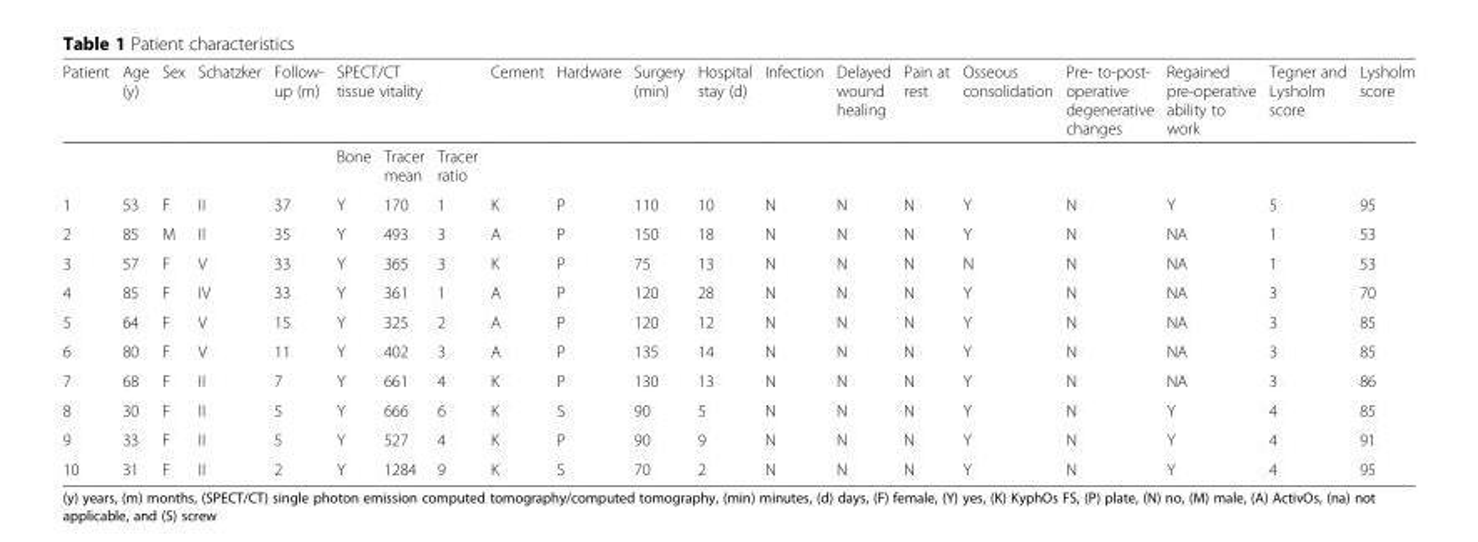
<table><thead><tr><td rowspan="2">Patient</td><td rowspan="2">Age (y)</td><td rowspan="2">Sex</td><td rowspan="2">Schatzker</td><td rowspan="2">Follow- up (m)</td><td colspan="3">SPECT/CT tissue vitality</td><td rowspan="2">Cement</td><td rowspan="2">Hardware</td><td rowspan="2">Surgery (min)</td><td rowspan="2">Hospital stay (d)</td><td rowspan="2">Infection</td><td rowspan="2">Delayed wound healing</td><td rowspan="2">Pain at rest</td><td rowspan="2">Osseous consolidation</td><td rowspan="2">Pre- to-post- operative degenerative changes</td><td rowspan="2">Regained pre-operative ability to work</td><td rowspan="2">Tegner and Lysholm score</td><td rowspan="2">Lysholm score</td></tr><tr><td>Bone</td><td>Tracer mean</td><td>Tracer ratio</td></tr></thead><tbody><tr><td>1</td><td>53</td><td>F</td><td>II</td><td>37</td><td>Y</td><td>170</td><td>1</td><td>K</td><td>P</td><td>110</td><td>10</td><td>N</td><td>N</td><td>N</td><td>Y</td><td>N</td><td>Y</td><td>5</td><td>95</td></tr><tr><td>2</td><td>85</td><td>M</td><td>II</td><td>35</td><td>Y</td><td>493</td><td>3</td><td>A</td><td>P</td><td>150</td><td>18</td><td>N</td><td>N</td><td>N</td><td>Y</td><td>N</td><td>NA</td><td>1</td><td>53</td></tr><tr><td>3</td><td>57</td><td>F</td><td>V</td><td>33</td><td>Y</td><td>365</td><td>3</td><td>K</td><td>P</td><td>75</td><td>13</td><td>N</td><td>N</td><td>N</td><td>N</td><td>N</td><td>NA</td><td>1</td><td>53</td></tr><tr><td>4</td><td>85</td><td>F</td><td>IV</td><td>33</td><td>Y</td><td>361</td><td>1</td><td>A</td><td>P</td><td>120</td><td>28</td><td>N</td><td>N</td><td>N</td><td>Y</td><td>N</td><td>NA</td><td>3</td><td>70</td></tr><tr><td>5</td><td>64</td><td>F</td><td>V</td><td>15</td><td>Y</td><td>325</td><td>2</td><td>A</td><td>P</td><td>120</td><td>12</td><td>N</td><td>N</td><td>N</td><td>Y</td><td>N</td><td>NA</td><td>3</td><td>85</td></tr><tr><td>6</td><td>80</td><td>F</td><td>V</td><td>11</td><td>Y</td><td>402</td><td>3</td><td>A</td><td>P</td><td>135</td><td>14</td><td>N</td><td>N</td><td>N</td><td>Y</td><td>N</td><td>NA</td><td>3</td><td>85</td></tr><tr><td>7</td><td>68</td><td>F</td><td>II</td><td>7</td><td>Y</td><td>661</td><td>4</td><td>K</td><td>P</td><td>130</td><td>13</td><td>N</td><td>N</td><td>N</td><td>Y</td><td>N</td><td>NA</td><td>3</td><td>86</td></tr><tr><td>8</td><td>30</td><td>F</td><td>II</td><td>5</td><td>Y</td><td>666</td><td>6</td><td>K</td><td>S</td><td>90</td><td>5</td><td>N</td><td>N</td><td>N</td><td>Y</td><td>N</td><td>Y</td><td>4</td><td>85</td></tr><tr><td>9</td><td>33</td><td>F</td><td>II</td><td>5</td><td>Y</td><td>527</td><td>4</td><td>K</td><td>P</td><td>90</td><td>9</td><td>N</td><td>N</td><td>N</td><td>Y</td><td>N</td><td>Y</td><td>4</td><td>91</td></tr><tr><td>10</td><td>31</td><td>F</td><td>II</td><td>2</td><td>Y</td><td>1284</td><td>9</td><td>K</td><td>S</td><td>70</td><td>2</td><td>N</td><td>N</td><td>N</td><td>Y</td><td>N</td><td>Y</td><td>4</td><td>95</td></tr></tbody></table>